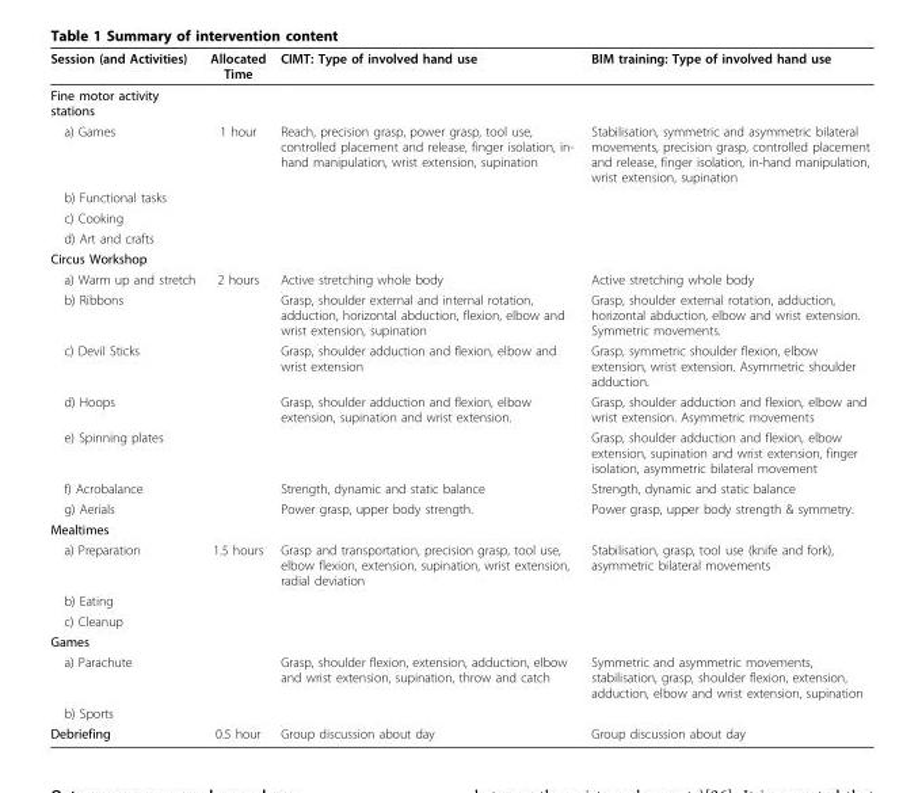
<table><thead><tr><td>Session (and Activities)</td><td>Allocated Time</td><td>CIMT: Type of involved hand use</td><td>BIM training: Type of involved hand use</td></tr></thead><tbody><tr><td colspan="4">Fine motor activity stations</td></tr><tr><td>a) Games</td><td>1 hour</td><td>Reach, precision grasp, power grasp, tool use, controlled placement and release, finger isolation, in- hand manipulation, wrist extension, supination</td><td>Stabilisation, symmetric and asymmetric bilateral movements, precision grasp, controlled placement and release, finger isolation, in-hand manipulation, wrist extension, supination</td></tr><tr><td colspan="4">b) Functional tasks</td></tr><tr><td colspan="4">c) Cooking</td></tr><tr><td colspan="4">d) Art and crafts</td></tr><tr><td colspan="4">Circus Workshop</td></tr><tr><td>a) Warm up and stretch</td><td>2 hours</td><td>Active stretching whole body</td><td>Active stretching whole body</td></tr><tr><td>b) Ribbons</td><td></td><td>Grasp, shoulder external and internal rotation, adduction, horizontal abduction, flexion, elbow and wrist extension, supination</td><td>Grasp, shoulder external rotation, adduction, horizontal abduction, elbow and wrist extension. Symmetric movements.</td></tr><tr><td>c) Devil Sticks</td><td></td><td>Grasp, shoulder adduction and flexion, elbow and wrist extension</td><td>Grasp, symmetric shoulder flexion, elbow extension, wrist extension. Asymmetric shoulder adduction.</td></tr><tr><td>d) Hoops</td><td></td><td>Grasp, shoulder adduction and flexion, elbow extension, supination and wrist extension.</td><td>Grasp, shoulder adduction and flexion, elbow and wrist extension. Asymmetric movements</td></tr><tr><td>e) Spinning plates</td><td></td><td></td><td>Grasp, shoulder adduction and flexion, elbow extension, supination and wrist extension, finger isolation, asymmetric bilateral movement</td></tr><tr><td>f) Acrobalance</td><td></td><td>Strength, dynamic and static balance</td><td>Strength, dynamic and static balance</td></tr><tr><td>g) Aerials</td><td></td><td>Power grasp, upper body strength.</td><td>Power grasp, upper body strength &amp; symmetry.</td></tr><tr><td colspan="4">Mealtimes</td></tr><tr><td>a) Preparation</td><td>1.5 hours</td><td>Grasp and transportation, precision grasp, tool use, elbow flexion, extension, supination, wrist extension, radial deviation</td><td>Stabilisation, grasp, tool use (knife and fork), asymmetric bilateral movements</td></tr><tr><td colspan="4">b) Eating</td></tr><tr><td colspan="4">c) Cleanup</td></tr><tr><td colspan="4">Games</td></tr><tr><td>a) Parachute</td><td></td><td>Grasp, shoulder flexion, extension, adduction, elbow and wrist extension, supination, throw and catch</td><td>Symmetric and asymmetric movements, stabilisation, grasp, shoulder flexion, extension, adduction, elbow and wrist extension, supination</td></tr><tr><td colspan="4">b) Sports</td></tr><tr><td>Debriefing</td><td>0.5 hour</td><td>Group discussion about day</td><td>Group discussion about day</td></tr></tbody></table>